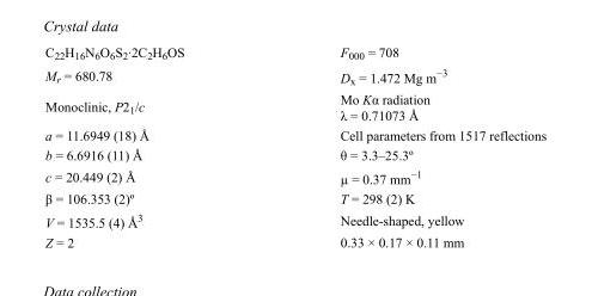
<table><tbody><tr><td>C<sub>22</sub>H<sub>16</sub>N<sub>6</sub>O<sub>6</sub>S<sub>2</sub>·2C<sub>2</sub>H<sub>6</sub>OS</td><td>F<sub>000</sub> = 708</td></tr><tr><td>M<sub>r</sub> = 680.78</td><td>D<sub>x</sub> = 1.472 Mg m<sup>−3</sup></td></tr><tr><td>Monoclinic, P2<sub>1</sub>/c</td><td>Mo Kα radiation λ = 0.71073 Å</td></tr><tr><td>a = 11.6949 (18) Å</td><td>Cell parameters from 1517 reflections</td></tr><tr><td>b = 6.6916 (11) Å</td><td>θ = 3.3–25.3º</td></tr><tr><td>c = 20.449 (2) Å</td><td>µ = 0.37 mm<sup>−1</sup></td></tr><tr><td>β = 106.353 (2)º</td><td>T = 298 (2) K</td></tr><tr><td>V = 1535.5 (4) Å<sup>3</sup></td><td>Needle-shaped, yellow</td></tr><tr><td>Z = 2</td><td>0.33 × 0.17 × 0.11 mm</td></tr></tbody></table>